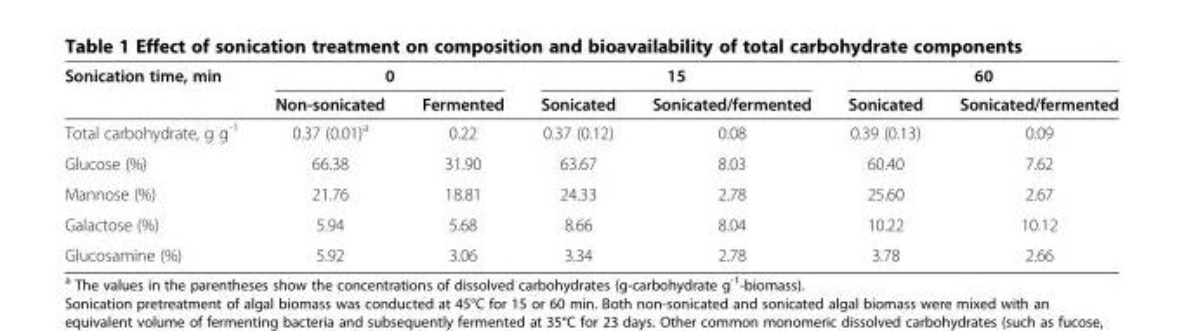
<table><thead><tr><td rowspan="2">Sonication time, min</td><td colspan="2">0</td><td colspan="2">15</td><td colspan="2">60</td></tr><tr><td>Non-sonicated</td><td>Fermented</td><td>Sonicated</td><td>Sonicated/fermented</td><td>Sonicated</td><td>Sonicated/fermented</td></tr></thead><tbody><tr><td>Total carbohydrate, g g<sup>-1</sup></td><td>0.37 (0.01)<sup>a</sup></td><td>0.22</td><td>0.37 (0.12)</td><td>0.08</td><td>0.39 (0.13)</td><td>0.09</td></tr><tr><td>Glucose (%)</td><td>66.38</td><td>31.90</td><td>63.67</td><td>8.03</td><td>60.40</td><td>7.62</td></tr><tr><td>Mannose (%)</td><td>21.76</td><td>18.81</td><td>24.33</td><td>2.78</td><td>25.60</td><td>2.67</td></tr><tr><td>Galactose (%)</td><td>5.94</td><td>5.68</td><td>8.66</td><td>8.04</td><td>10.22</td><td>10.12</td></tr><tr><td>Glucosamine (%)</td><td>5.92</td><td>3.06</td><td>3.34</td><td>2.78</td><td>3.78</td><td>2.66</td></tr></tbody></table>